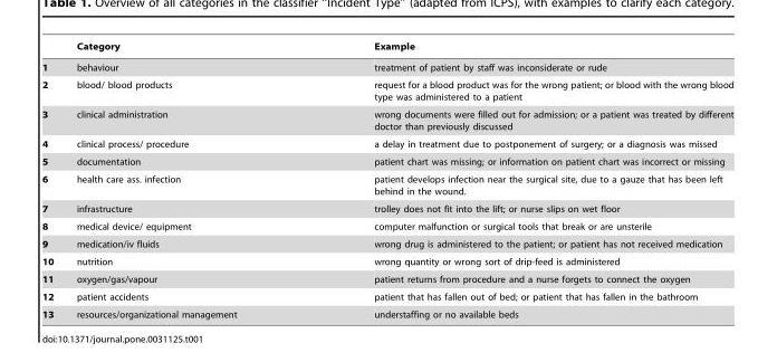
<table><thead><tr><td></td><td>Category</td><td>Example</td></tr></thead><tbody><tr><td>1</td><td>behaviour</td><td>treatment of patient by staff was inconsiderate or rude</td></tr><tr><td>2</td><td>blood/ blood products</td><td>request for a blood product was for the wrong patient; or blood with the wrong blood type was administered to a patient</td></tr><tr><td>3</td><td>clinical administration</td><td>wrong documents were filled out for admission; or a patient was treated by different doctor than previously discussed</td></tr><tr><td>4</td><td>clinical process/ procedure</td><td>a delay in treatment due to postponement of surgery; or a diagnosis was missed</td></tr><tr><td>5</td><td>documentation</td><td>patient chart was missing; or information on patient chart was incorrect or missing</td></tr><tr><td>6</td><td>health care ass. infection</td><td>patient develops infection near the surgical site, due to a gauze that has been left behind in the wound.</td></tr><tr><td>7</td><td>infrastructure</td><td>trolley does not fit into the lift; or nurse slips on wet floor</td></tr><tr><td>8</td><td>medical device/ equipment</td><td>computer malfunction or surgical tools that break or are unsterile</td></tr><tr><td>9</td><td>medication/iv fluids</td><td>wrong drug is administered to the patient; or patient has not received medication</td></tr><tr><td>10</td><td>nutrition</td><td>wrong quantity or wrong sort of drip-feed is administered</td></tr><tr><td>11</td><td>oxygen/gas/vapour</td><td>patient returns from procedure and a nurse forgets to connect the oxygen</td></tr><tr><td>12</td><td>patient accidents</td><td>patient that has fallen out of bed; or patient that has fallen in the bathroom</td></tr><tr><td>13</td><td>resources/organizational management</td><td>understaffing or no available beds</td></tr></tbody></table>